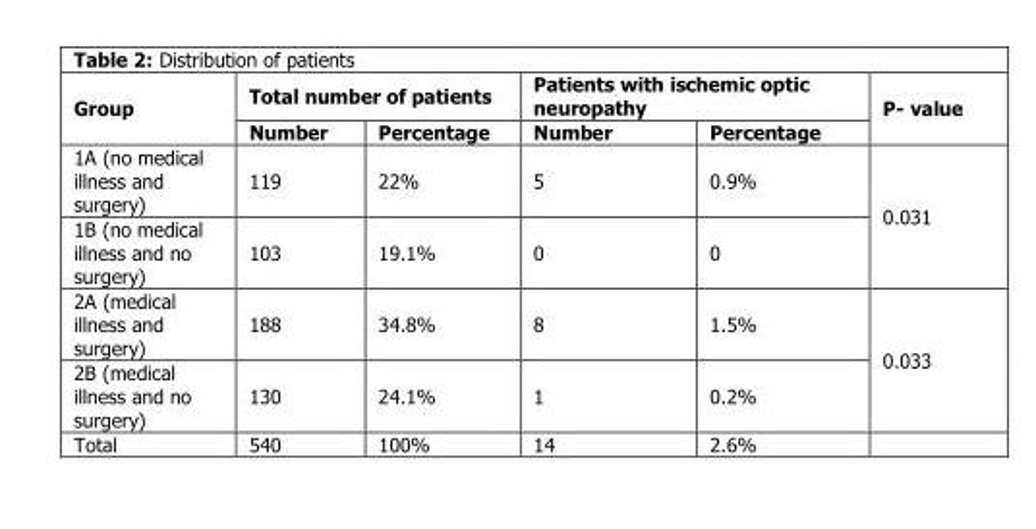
<table><thead><tr><td rowspan="2">Group</td><td colspan="2">Total number of patients</td><td colspan="2">Patients with ischemic optic neuropathy</td><td rowspan="2">P- value</td></tr><tr><td>Number</td><td>Percentage</td><td>Number</td><td>Percentage</td></tr></thead><tbody><tr><td>1A (no medical illness and surgery)</td><td>119</td><td>22%</td><td>5</td><td>0.9%</td><td rowspan="2">0.031</td></tr><tr><td>1B (no medical illness and no surgery)</td><td>103</td><td>19.1%</td><td>0</td><td>0</td></tr><tr><td>2A (medical illness and surgery)</td><td>188</td><td>34.8%</td><td>8</td><td>1.5%</td><td rowspan="2">0.033</td></tr><tr><td>2B (medical illness and no surgery)</td><td>130</td><td>24.1%</td><td>1</td><td>0.2%</td></tr><tr><td>Total</td><td>540</td><td>100%</td><td>14</td><td>2.6%</td><td></td></tr></tbody></table>